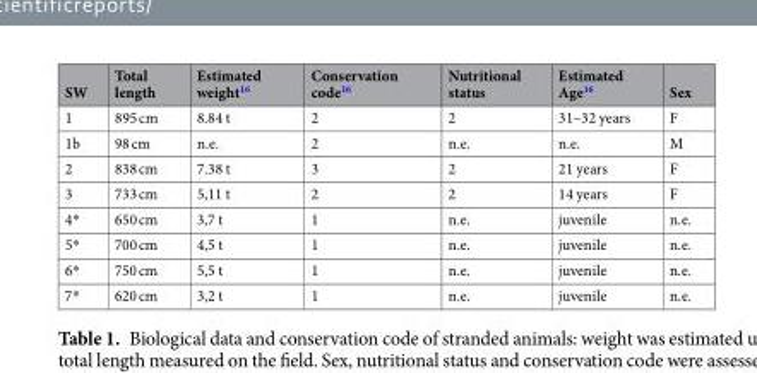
<table><thead><tr><td>SW</td><td>Total length</td><td>Estimated weight<sup>16</sup></td><td>Conservation code<sup>16</sup></td><td>Nutritional status</td><td>Estimated Age<sup>16</sup></td><td>Sex</td></tr></thead><tbody><tr><td>1</td><td>895 cm</td><td>8.84 t</td><td>2</td><td>2</td><td>31–32 years</td><td>F</td></tr><tr><td>1b</td><td>98 cm</td><td>n.e.</td><td>2</td><td>n.e.</td><td>n.e.</td><td>M</td></tr><tr><td>2</td><td>838 cm</td><td>7.38 t</td><td>3</td><td>2</td><td>21 years</td><td>F</td></tr><tr><td>3</td><td>733 cm</td><td>5,11 t</td><td>2</td><td>2</td><td>14 years</td><td>F</td></tr><tr><td>4*</td><td>650 cm</td><td>3,7 t</td><td>1</td><td>n.e.</td><td>juvenile</td><td>n.e.</td></tr><tr><td>5*</td><td>700 cm</td><td>4,5 t</td><td>1</td><td>n.e.</td><td>juvenile</td><td>n.e.</td></tr><tr><td>6*</td><td>750 cm</td><td>5,5 t</td><td>1</td><td>n.e.</td><td>juvenile</td><td>n.e.</td></tr><tr><td>7*</td><td>620 cm</td><td>3,2 t</td><td>1</td><td>n.e.</td><td>juvenile</td><td>n.e.</td></tr></tbody></table>